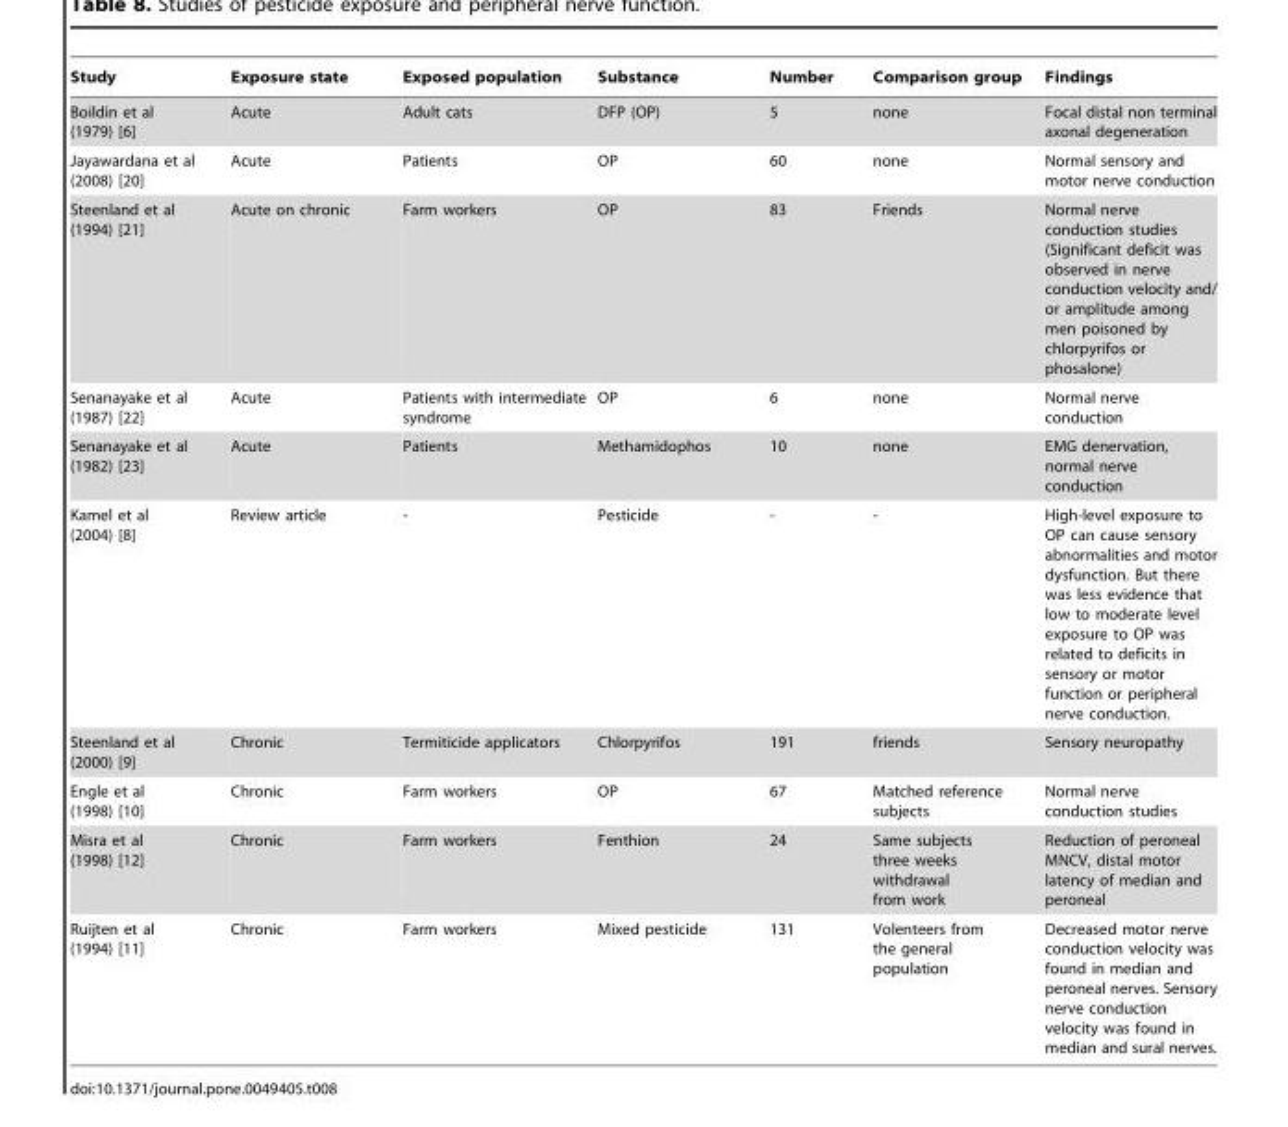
<table><thead><tr><td>Study</td><td>Exposure state</td><td>Exposed population</td><td>Substance</td><td>Number</td><td>Comparison group</td><td>Findings</td></tr></thead><tbody><tr><td>Boildin et al (1979) [6]</td><td>Acute</td><td>Adult cats</td><td>DFP (OP)</td><td>5</td><td>none</td><td>Focal distal non terminal axonal degeneration</td></tr><tr><td>Jayawardana et al (2008) [20]</td><td>Acute</td><td>Patients</td><td>OP</td><td>60</td><td>none</td><td>Normal sensory and motor nerve conduction</td></tr><tr><td>Steenland et al (1994) [21]</td><td>Acute on chronic</td><td>Farm workers</td><td>OP</td><td>83</td><td>Friends</td><td>Normal nerve conduction studies (Significant deficit was observed in nerve conduction velocity and/ or amplitude among men poisoned by chlorpyrifos or phosalone)</td></tr><tr><td>Senanayake et al (1987) [22]</td><td>Acute</td><td>Patients with intermediate syndrome</td><td>OP</td><td>6</td><td>none</td><td>Normal nerve conduction</td></tr><tr><td>Senanayake et al (1982) [23]</td><td>Acute</td><td>Patients</td><td>Methamidophos</td><td>10</td><td>none</td><td>EMG denervation, normal nerve conduction</td></tr><tr><td>Kamel et al (2004) [8]</td><td>Review article</td><td>-</td><td>Pesticide</td><td>-</td><td>-</td><td>High-level exposure to OP can cause sensory abnormalities and motor dysfunction. But there was less evidence that low to moderate level exposure to OP was related to deficits in sensory or motor function or peripheral nerve conduction.</td></tr><tr><td>Steenland et al (2000) [9]</td><td>Chronic</td><td>Termiticide applicators</td><td>Chlorpyrifos</td><td>191</td><td>friends</td><td>Sensory neuropathy</td></tr><tr><td>Engle et al (1998) [10]</td><td>Chronic</td><td>Farm workers</td><td>OP</td><td>67</td><td>Matched reference subjects</td><td>Normal nerve conduction studies</td></tr><tr><td>Misra et al (1998) [12]</td><td>Chronic</td><td>Farm workers</td><td>Fenthion</td><td>24</td><td>Same subjects three weeks withdrawal from work</td><td>Reduction of peroneal MNCV, distal motor latency of median and peroneal</td></tr><tr><td>Ruijten et al (1994) [11]</td><td>Chronic</td><td>Farm workers</td><td>Mixed pesticide</td><td>131</td><td>Volenteers from the general population</td><td>Decreased motor nerve conduction velocity was found in median and peroneal nerves. Sensory nerve conduction velocity was found in median and sural nerves.</td></tr></tbody></table>